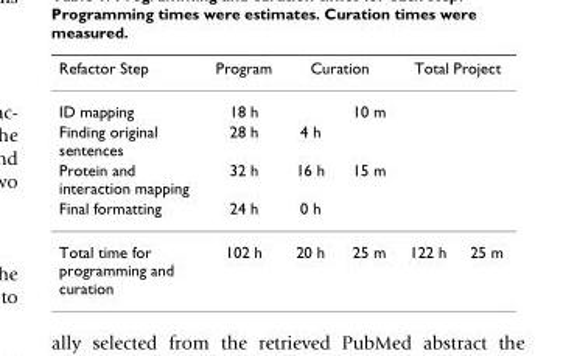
<table><thead><tr><td rowspan="2">Refactor Step ID mapping</td><td rowspan="2">Program 18 h</td><td colspan="2">Curation</td><td colspan="2">Total Project</td></tr><tr><td></td><td>10 m</td><td></td><td></td></tr></thead><tbody><tr><td>Finding original sentences</td><td>28 h</td><td>4 h</td><td></td><td></td><td></td></tr><tr><td>Protein and interaction mapping</td><td>32 h</td><td>16 h</td><td>15 m</td><td></td><td></td></tr><tr><td>Final formatting</td><td>24 h</td><td>0 h</td><td></td><td></td><td></td></tr><tr><td>Total time for programming and curation</td><td>102 h</td><td>20 h</td><td>25 m</td><td>122 h</td><td>25 m</td></tr></tbody></table>